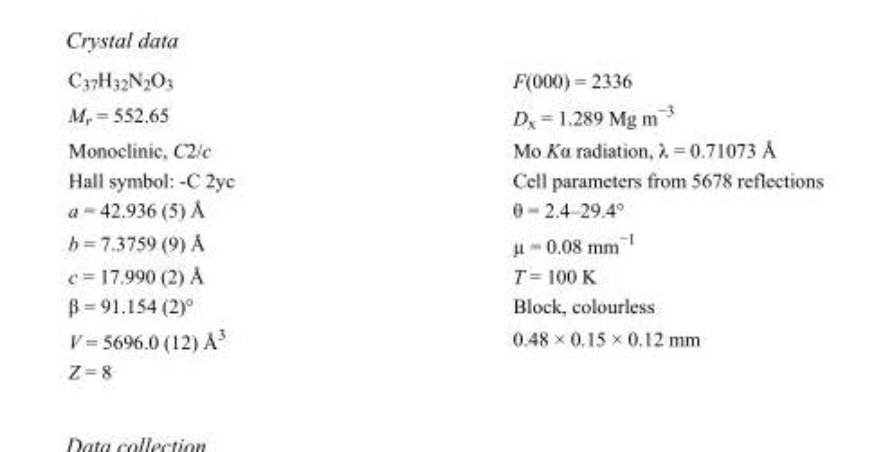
<table><tbody><tr><td>C<sub>37</sub>H<sub>32</sub>N<sub>2</sub>O<sub>3</sub></td><td>F(000) = 2336</td></tr><tr><td>M<sub>r</sub> = 552.65</td><td>D<sub>x</sub> = 1.289 Mg m<sup>−3</sup></td></tr><tr><td>Monoclinic, C2/c</td><td>Mo Kα radiation, λ = 0.71073 Å</td></tr><tr><td>Hall symbol: -C 2yc</td><td>Cell parameters from 5678 reflections</td></tr><tr><td>a = 42.936 (5) Å</td><td>θ = 2.4–29.4°</td></tr><tr><td>b = 7.3759 (9) Å</td><td>µ = 0.08 mm<sup>−1</sup></td></tr><tr><td>c = 17.990 (2) Å</td><td>T = 100 K</td></tr><tr><td>β = 91.154 (2)°</td><td>Block, colourless</td></tr><tr><td>V = 5696.0 (12) Å<sup>3</sup></td><td>0.48 × 0.15 × 0.12 mm</td></tr><tr><td>Z = 8</td><td></td></tr></tbody></table>